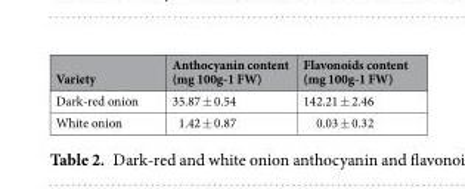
<table><thead><tr><td>Variety</td><td>Anthocyanin content (mg 100g-1 FW)</td><td>Flavonoids content (mg 100g-1 FW)</td></tr></thead><tbody><tr><td>Dark-red onion</td><td>35.87 ± 0.54</td><td>142.21 ± 2.46</td></tr><tr><td>White onion</td><td>1.42 ± 0.87</td><td>0.03 ± 0.32</td></tr></tbody></table>